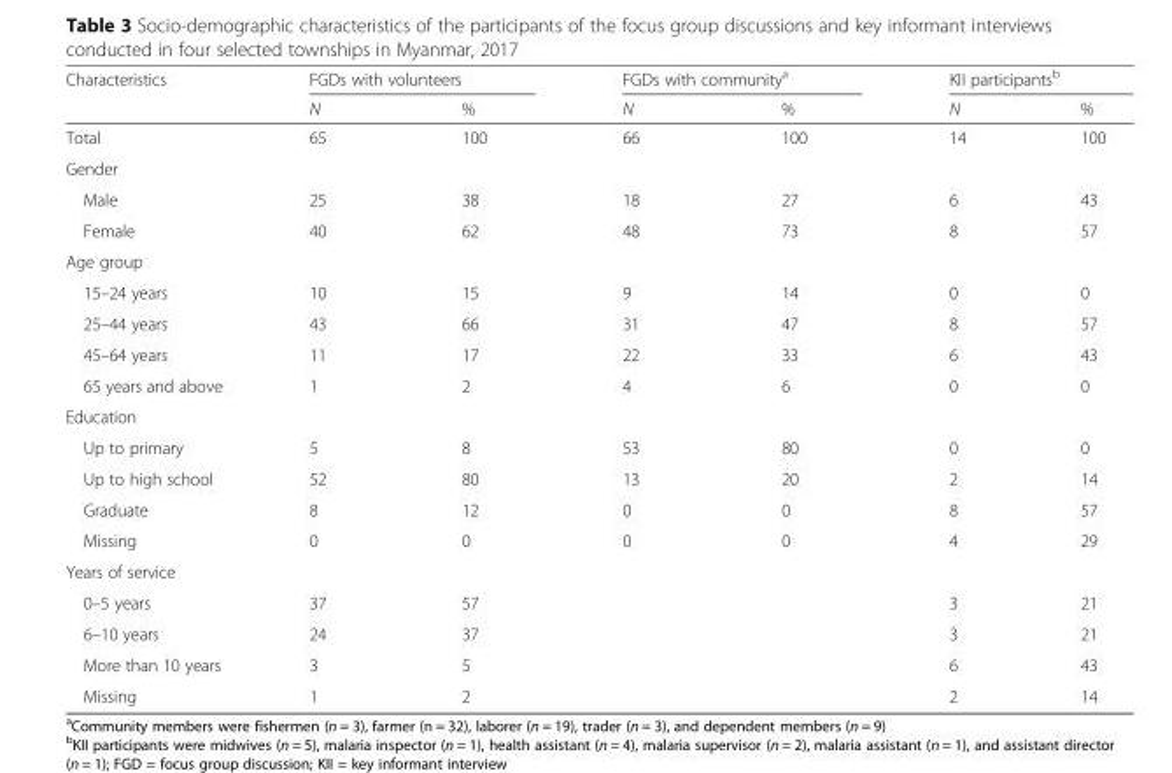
<table><thead><tr><td rowspan="2">Characteristics</td><td colspan="2">FGDs with volunteers</td><td colspan="2">FGDs with community<sup>a</sup></td><td colspan="2">KII participants<sup>b</sup></td></tr><tr><td>N</td><td>%</td><td>N</td><td>%</td><td>N</td><td>%</td></tr></thead><tbody><tr><td>Total</td><td>65</td><td>100</td><td>66</td><td>100</td><td>14</td><td>100</td></tr><tr><td colspan="7">Gender</td></tr><tr><td>Male</td><td>25</td><td>38</td><td>18</td><td>27</td><td>6</td><td>43</td></tr><tr><td>Female</td><td>40</td><td>62</td><td>48</td><td>73</td><td>8</td><td>57</td></tr><tr><td colspan="7">Age group</td></tr><tr><td>15–24 years</td><td>10</td><td>15</td><td>9</td><td>14</td><td>0</td><td>0</td></tr><tr><td>25–44 years</td><td>43</td><td>66</td><td>31</td><td>47</td><td>8</td><td>57</td></tr><tr><td>45–64 years</td><td>11</td><td>17</td><td>22</td><td>33</td><td>6</td><td>43</td></tr><tr><td>65 years and above</td><td>1</td><td>2</td><td>4</td><td>6</td><td>0</td><td>0</td></tr><tr><td colspan="7">Education</td></tr><tr><td>Up to primary</td><td>5</td><td>8</td><td>53</td><td>80</td><td>0</td><td>0</td></tr><tr><td>Up to high school</td><td>52</td><td>80</td><td>13</td><td>20</td><td>2</td><td>14</td></tr><tr><td>Graduate</td><td>8</td><td>12</td><td>0</td><td>0</td><td>8</td><td>57</td></tr><tr><td>Missing</td><td>0</td><td>0</td><td>0</td><td>0</td><td>4</td><td>29</td></tr><tr><td colspan="7">Years of service</td></tr><tr><td>0–5 years</td><td>37</td><td>57</td><td></td><td></td><td>3</td><td>21</td></tr><tr><td>6–10 years</td><td>24</td><td>37</td><td></td><td></td><td>3</td><td>21</td></tr><tr><td>More than 10 years</td><td>3</td><td>5</td><td></td><td></td><td>6</td><td>43</td></tr><tr><td>Missing</td><td>1</td><td>2</td><td></td><td></td><td>2</td><td>14</td></tr></tbody></table>